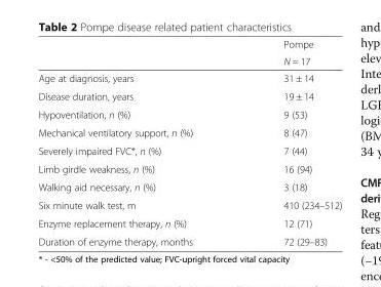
<table><thead><tr><td rowspan="2"></td><td rowspan="2">Pompe N = 17</td></tr><tr></tr></thead><tbody><tr><td>Age at diagnosis, years</td><td>31 ± 14</td></tr><tr><td>Disease duration, years</td><td>19 ± 14</td></tr><tr><td>Hypoventilation, n (%)</td><td>9 (53)</td></tr><tr><td>Mechanical ventilatory support, n (%)</td><td>8 (47)</td></tr><tr><td>Severely impaired FVC*, n (%)</td><td>7 (44)</td></tr><tr><td>Limb girdle weakness, n (%)</td><td>16 (94)</td></tr><tr><td>Walking aid necessary, n (%)</td><td>3 (18)</td></tr><tr><td>Six minute walk test, m</td><td>410 (234–512)</td></tr><tr><td>Enzyme replacement therapy, n (%)</td><td>12 (71)</td></tr><tr><td>Duration of enzyme therapy, months</td><td>72 (29–83)</td></tr></tbody></table>